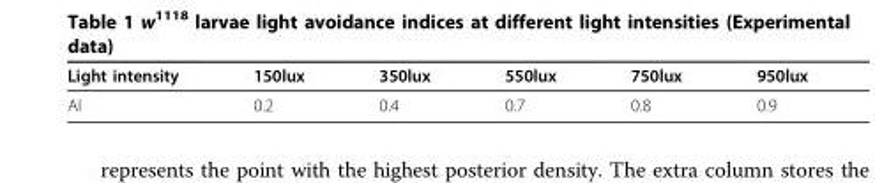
<table><thead><tr><td>Light intensity</td><td>150lux</td><td>350lux</td><td>550lux</td><td>750lux</td><td>950lux</td></tr></thead><tbody><tr><td>AI</td><td>0.2</td><td>0.4</td><td>0.7</td><td>0.8</td><td>0.9</td></tr></tbody></table>